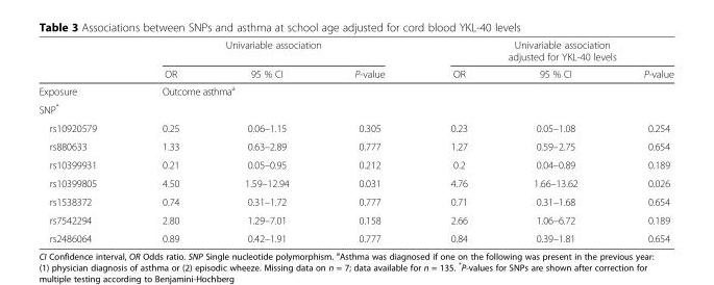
<table><thead><tr><td rowspan="2"></td><td colspan="3">Univariable association</td><td colspan="3">Univariable association adjusted for YKL-40 levels</td></tr><tr><td>OR</td><td>95 % CI</td><td>P-value</td><td>OR</td><td>95 % CI</td><td>P-value</td></tr></thead><tbody><tr><td>Exposure</td><td colspan="6">Outcome asthma<sup>a</sup></td></tr><tr><td colspan="7">SNP*</td></tr><tr><td>rs10920579</td><td>0.25</td><td>0.06–1.15</td><td>0.305</td><td>0.23</td><td>0.05–1.08</td><td>0.254</td></tr><tr><td>rs880633</td><td>1.33</td><td>0.63–2.89</td><td>0.777</td><td>1.27</td><td>0.59–2.75</td><td>0.654</td></tr><tr><td>rs10399931</td><td>0.21</td><td>0.05–0.95</td><td>0.212</td><td>0.2</td><td>0.04–0.89</td><td>0.189</td></tr><tr><td>rs10399805</td><td>4.50</td><td>1.59–12.94</td><td>0.031</td><td>4.76</td><td>1.66–13.62</td><td>0.026</td></tr><tr><td>rs1538372</td><td>0.74</td><td>0.31–1.72</td><td>0.777</td><td>0.71</td><td>0.31–1.68</td><td>0.654</td></tr><tr><td>rs7542294</td><td>2.80</td><td>1.29–7.01</td><td>0.158</td><td>2.66</td><td>1.06–6.72</td><td>0.189</td></tr><tr><td>rs2486064</td><td>0.89</td><td>0.42–1.91</td><td>0.777</td><td>0.84</td><td>0.39–1.81</td><td>0.654</td></tr></tbody></table>